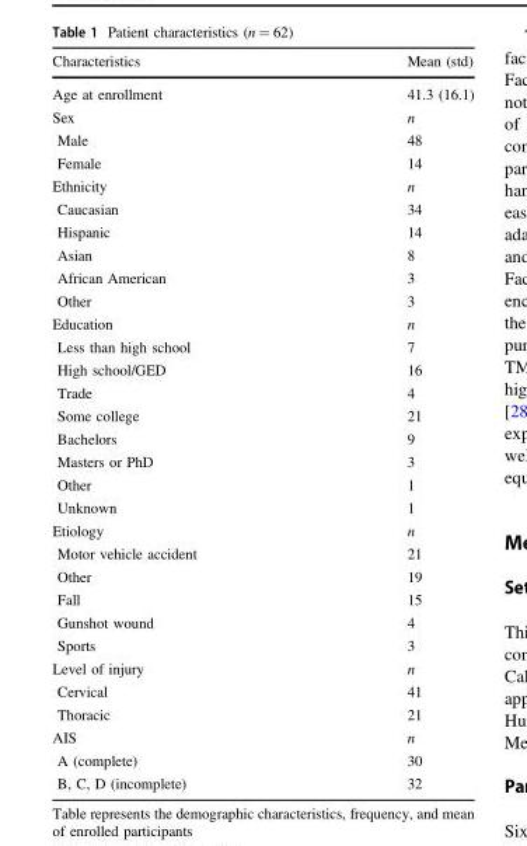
<table><thead><tr><td>Characteristics</td><td>Mean (std)</td></tr></thead><tbody><tr><td>Age at enrollment</td><td>41.3 (16.1)</td></tr><tr><td>Sex</td><td>n</td></tr><tr><td>Male</td><td>48</td></tr><tr><td>Female</td><td>14</td></tr><tr><td>Ethnicity</td><td>n</td></tr><tr><td>Caucasian</td><td>34</td></tr><tr><td>Hispanic</td><td>14</td></tr><tr><td>Asian</td><td>8</td></tr><tr><td>African American</td><td>3</td></tr><tr><td>Other</td><td>3</td></tr><tr><td>Education</td><td>n</td></tr><tr><td>Less than high school</td><td>7</td></tr><tr><td>High school/GED</td><td>16</td></tr><tr><td>Trade</td><td>4</td></tr><tr><td>Some college</td><td>21</td></tr><tr><td>Bachelors</td><td>9</td></tr><tr><td>Masters or PhD</td><td>3</td></tr><tr><td>Other</td><td>1</td></tr><tr><td>Unknown</td><td>1</td></tr><tr><td>Etiology</td><td>n</td></tr><tr><td>Motor vehicle accident</td><td>21</td></tr><tr><td>Other</td><td>19</td></tr><tr><td>Fall</td><td>15</td></tr><tr><td>Gunshot wound</td><td>4</td></tr><tr><td>Sports</td><td>3</td></tr><tr><td>Level of injury</td><td>n</td></tr><tr><td>Cervical</td><td>41</td></tr><tr><td>Thoracic</td><td>21</td></tr><tr><td>AIS</td><td>n</td></tr><tr><td>A (complete)</td><td>30</td></tr><tr><td>B, C, D (incomplete)</td><td>32</td></tr></tbody></table>